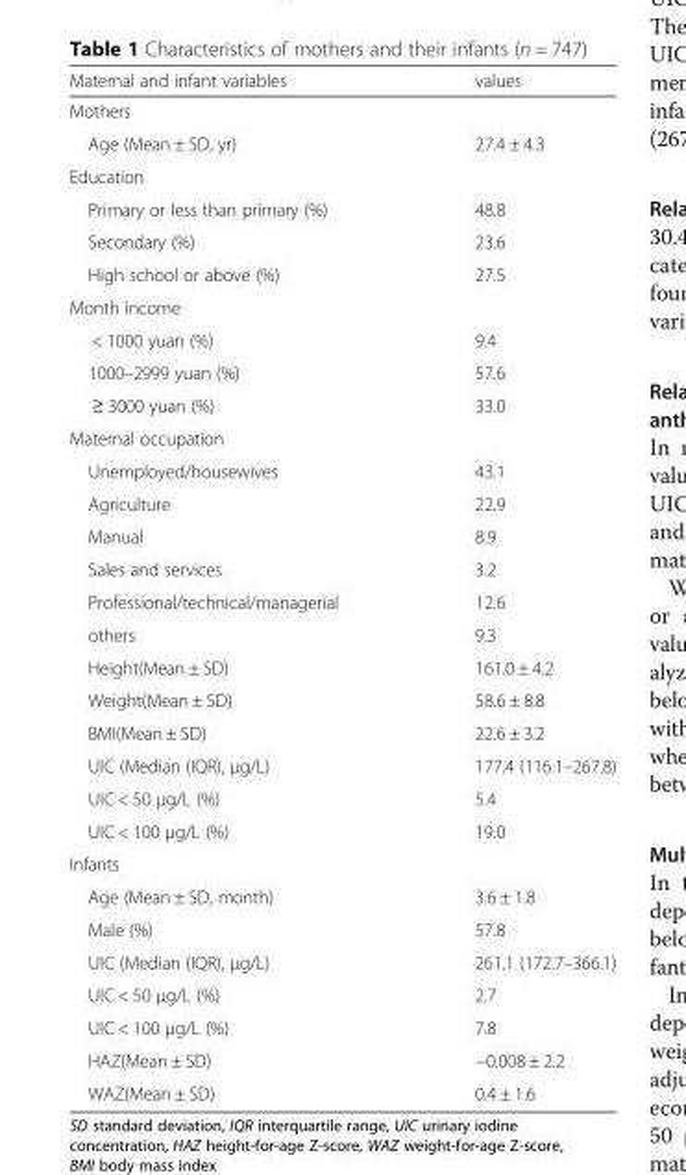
<table><thead><tr><td>Maternal and infant variables</td><td>values</td></tr></thead><tbody><tr><td colspan="2">Mothers</td></tr><tr><td>Age (Mean ± SD, yr)</td><td>27.4 ± 4.3</td></tr><tr><td colspan="2">Education</td></tr><tr><td>Primary or less than primary (%)</td><td>48.8</td></tr><tr><td>Secondary (%)</td><td>23.6</td></tr><tr><td>High school or above (%)</td><td>27.5</td></tr><tr><td colspan="2">Month income</td></tr><tr><td>&lt; 1000 yuan (%)</td><td>9.4</td></tr><tr><td>1000–2999 yuan (%)</td><td>57.6</td></tr><tr><td>≥ 3000 yuan (%)</td><td>33.0</td></tr><tr><td colspan="2">Maternal occupation</td></tr><tr><td>Unemployed/housewives</td><td>43.1</td></tr><tr><td>Agriculture</td><td>22.9</td></tr><tr><td>Manual</td><td>8.9</td></tr><tr><td>Sales and services</td><td>3.2</td></tr><tr><td>Professional/technical/managerial</td><td>12.6</td></tr><tr><td>others</td><td>9.3</td></tr><tr><td>Height(Mean ± SD)</td><td>161.0 ± 4.2</td></tr><tr><td>Weight(Mean ± SD)</td><td>58.6 ± 8.8</td></tr><tr><td>BMI(Mean ± SD)</td><td>22.6 ± 3.2</td></tr><tr><td>UIC (Median (IQR), μg/L)</td><td>177.4 (116.1–267.8)</td></tr><tr><td>UIC &lt; 50 μg/L (%)</td><td>5.4</td></tr><tr><td>UIC &lt; 100 μg/L (%)</td><td>19.0</td></tr><tr><td colspan="2">Infants</td></tr><tr><td>Age (Mean ± SD, month)</td><td>3.6 ± 1.8</td></tr><tr><td>Male (%)</td><td>57.8</td></tr><tr><td>UIC (Median (IQR), μg/L)</td><td>261.1 (172.7–366.1)</td></tr><tr><td>UIC &lt; 50 μg/L (%)</td><td>2.7</td></tr><tr><td>UIC &lt; 100 μg/L (%)</td><td>7.8</td></tr><tr><td>HAZ(Mean ± SD)</td><td>−0.008 ± 2.2</td></tr><tr><td>WAZ(Mean ± SD)</td><td>0.4 ± 1.6</td></tr></tbody></table>